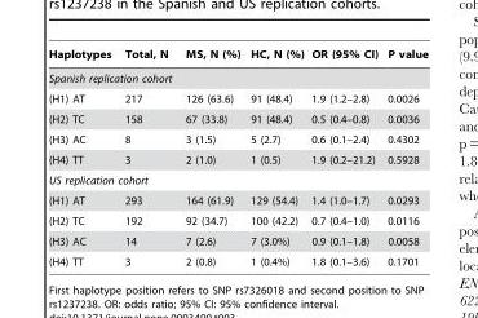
<table><thead><tr><td>Haplotypes</td><td>Total, N</td><td>MS, N (%)</td><td>HC, N (%)</td><td>OR (95% CI)</td><td>P value</td></tr></thead><tbody><tr><td colspan="6">Spanish replication cohort</td></tr><tr><td>(H1) AT</td><td>217</td><td>126 (63.6)</td><td>91 (48.4)</td><td>1.9 (1.2–2.8)</td><td>0.0026</td></tr><tr><td>(H2) TC</td><td>158</td><td>67 (33.8)</td><td>91 (48.4)</td><td>0.5 (0.4–0.8)</td><td>0.0036</td></tr><tr><td>(H3) AC</td><td>8</td><td>3 (1.5)</td><td>5 (2.7)</td><td>0.6 (0.1–2.4)</td><td>0.4302</td></tr><tr><td>(H4) TT</td><td>3</td><td>2 (1.0)</td><td>1 (0.5)</td><td>1.9 (0.2–21.2)</td><td>0.5928</td></tr><tr><td colspan="6">US replication cohort</td></tr><tr><td>(H1) AT</td><td>293</td><td>164 (61.9)</td><td>129 (54.4)</td><td>1.4 (1.0–1.7)</td><td>0.0293</td></tr><tr><td>(H2) TC</td><td>192</td><td>92 (34.7)</td><td>100 (42.2)</td><td>0.7 (0.4–1.0)</td><td>0.0116</td></tr><tr><td>(H3) AC</td><td>14</td><td>7 (2.6)</td><td>7 (3.0%)</td><td>0.9 (0.1–1.8)</td><td>0.0058</td></tr><tr><td>(H4) TT</td><td>3</td><td>2 (0.8)</td><td>1 (0.4%)</td><td>1.8 (0.1–3.6)</td><td>0.1701</td></tr></tbody></table>